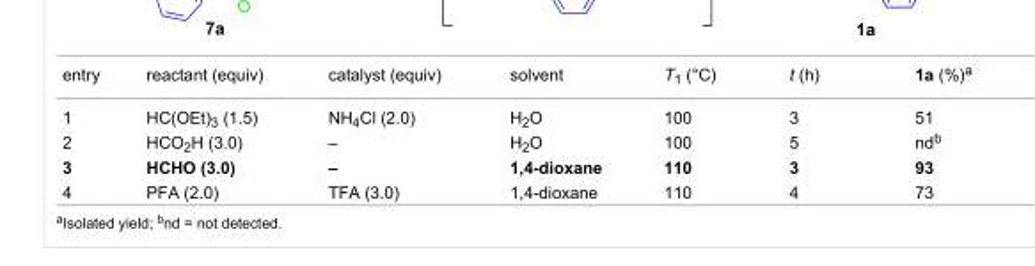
<table><tbody><tr><td>entry</td><td>reactant (equiv)</td><td>catalyst (equiv)</td><td>solvent</td><td>T<sub>1</sub> (°C)</td><td>t (h)</td><td>1a (%)<sup>a</sup></td></tr><tr><td>1</td><td>HC(OEt)<sub>3</sub> (1.5)</td><td>NH<sub>4</sub>Cl (2.0)</td><td>H<sub>2</sub>O</td><td>100</td><td>3</td><td>51</td></tr><tr><td>2</td><td>HCO<sub>2</sub>H (3.0)</td><td>–</td><td>H<sub>2</sub>O</td><td>100</td><td>5</td><td>nd<sup>b</sup></td></tr><tr><td>3</td><td>HCHO (3.0)</td><td>–</td><td>1,4-dioxane</td><td>110</td><td>3</td><td>93</td></tr><tr><td>4</td><td>PFA (2.0)</td><td>TFA (3.0)</td><td>1,4-dioxane</td><td>110</td><td>4</td><td>73</td></tr></tbody></table>